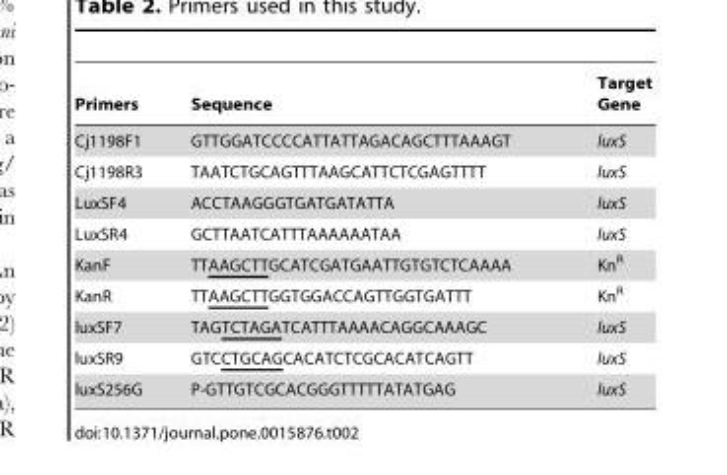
<table><thead><tr><td>Primers</td><td>Sequence</td><td>Target Gene</td></tr></thead><tbody><tr><td>Cj1198F1</td><td>GTTGGATCCCCATTATTAGACAGCTTTAAAGT</td><td>luxS</td></tr><tr><td>Cj1198R3</td><td>TAATCTGCAGTTTAAGCATTCTCGAGTTTT</td><td>luxS</td></tr><tr><td>LuxSF4</td><td>ACCTAAGGGTGATGATATTA</td><td>luxS</td></tr><tr><td>LuxSR4</td><td>GCTTAATCATTTAAAAAATAA</td><td>luxS</td></tr><tr><td>KanF</td><td>TTAAGCTTGCATCGATGAATTGTGTCTCAAAA</td><td>Kn<sup>R</sup></td></tr><tr><td>KanR</td><td>TTAAGCTTGGTGGACCAGTTGGTGATTT</td><td>Kn<sup>R</sup></td></tr><tr><td>luxSF7</td><td>TAGTCTAGATCATTTAAAACAGGCAAAGC</td><td>luxS</td></tr><tr><td>luxSR9</td><td>GTCCTGCAGCACATCTCGCACATCAGTT</td><td>luxS</td></tr><tr><td>luxS256G</td><td>P-GTTGTCGCACGGGTTTTTATATGAG</td><td>luxS</td></tr></tbody></table>